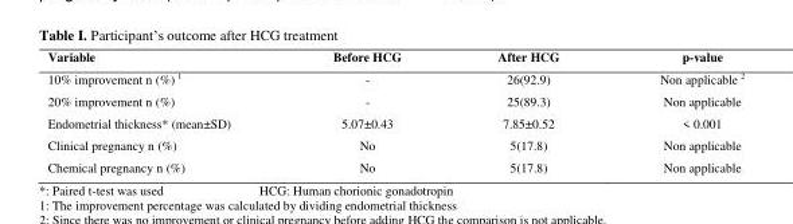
<table><thead><tr><td>Variable</td><td>Before HCG</td><td>After HCG</td><td>p-value</td></tr></thead><tbody><tr><td>10% improvement n (%) 1</td><td>-</td><td>26(92.9)</td><td>Non applicable 2</td></tr><tr><td>20% improvement n (%)</td><td>-</td><td>25(89.3)</td><td>Non applicable</td></tr><tr><td>Endometrial thickness* (mean±SD)</td><td>5.07±0.43</td><td>7.85±0.52</td><td>&lt; 0.001</td></tr><tr><td>Clinical pregnancy n (%)</td><td>No</td><td>5(17.8)</td><td>Non applicable</td></tr><tr><td>Chemical pregnancy n (%)</td><td>No</td><td>5(17.8)</td><td>Non applicable</td></tr></tbody></table>